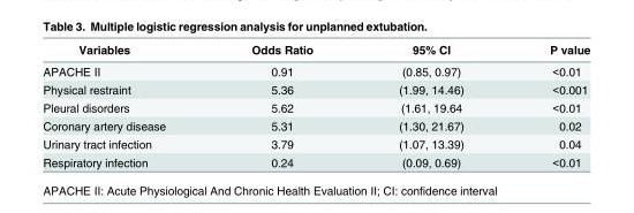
<table><thead><tr><td>Variables</td><td>Odds Ratio</td><td>95% CI</td><td>P value</td></tr></thead><tbody><tr><td>APACHE II</td><td>0.91</td><td>(0.85, 0.97)</td><td>&lt;0.01</td></tr><tr><td>Physical restraint</td><td>5.36</td><td>(1.99, 14.46)</td><td>&lt;0.001</td></tr><tr><td>Pleural disorders</td><td>5.62</td><td>(1.61, 19.64</td><td>&lt;0.01</td></tr><tr><td>Coronary artery disease</td><td>5.31</td><td>(1.30, 21.67)</td><td>0.02</td></tr><tr><td>Urinary tract infection</td><td>3.79</td><td>(1.07, 13.39)</td><td>0.04</td></tr><tr><td>Respiratory infection</td><td>0.24</td><td>(0.09, 0.69)</td><td>&lt;0.01</td></tr></tbody></table>